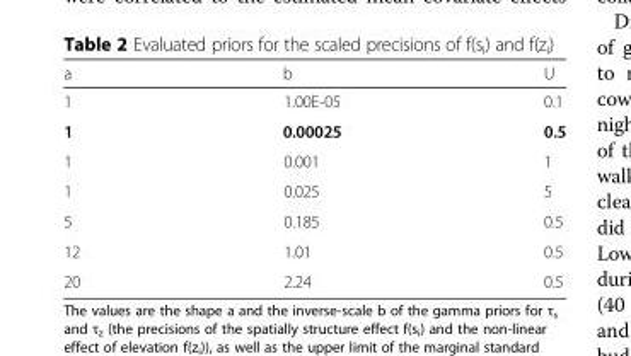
<table><thead><tr><td>a</td><td>b</td><td>U</td></tr></thead><tbody><tr><td>1</td><td>1.00E-05</td><td>0.1</td></tr><tr><td>1</td><td>0.00025</td><td>0.5</td></tr><tr><td>1</td><td>0.001</td><td>1</td></tr><tr><td>1</td><td>0.025</td><td>5</td></tr><tr><td>5</td><td>0.185</td><td>0.5</td></tr><tr><td>12</td><td>1.01</td><td>0.5</td></tr><tr><td>20</td><td>2.24</td><td>0.5</td></tr></tbody></table>